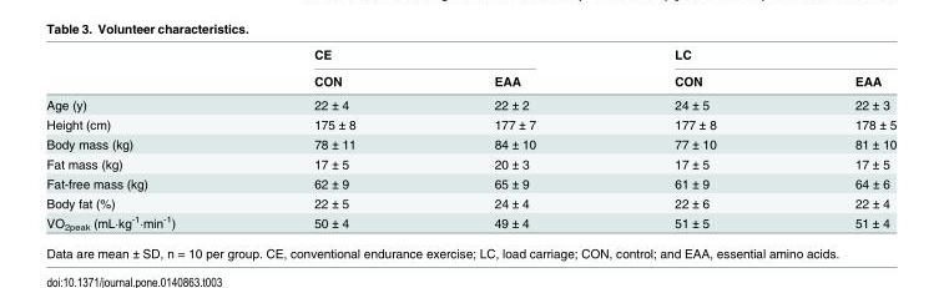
<table><thead><tr><td rowspan="2"></td><td colspan="2">CE</td><td colspan="2">LC</td></tr><tr><td>CON</td><td>EAA</td><td>CON</td><td>EAA</td></tr></thead><tbody><tr><td>Age (y)</td><td>22 ± 4</td><td>22 ± 2</td><td>24 ± 5</td><td>22 ± 3</td></tr><tr><td>Height (cm)</td><td>175 ± 8</td><td>177 ± 7</td><td>177 ± 8</td><td>178 ± 5</td></tr><tr><td>Body mass (kg)</td><td>78 ± 11</td><td>84 ± 10</td><td>77 ± 10</td><td>81 ± 10</td></tr><tr><td>Fat mass (kg)</td><td>17 ± 5</td><td>20 ± 3</td><td>17 ± 5</td><td>17 ± 5</td></tr><tr><td>Fat-free mass (kg)</td><td>62 ± 9</td><td>65 ± 9</td><td>61 ± 9</td><td>64 ± 6</td></tr><tr><td>Body fat (%)</td><td>22 ± 5</td><td>24 ± 4</td><td>22 ± 6</td><td>22 ± 4</td></tr><tr><td>VO<sub>2peak</sub> (mL∙kg<sup>-1</sup>∙min<sup>-1</sup>)</td><td>50 ± 4</td><td>49 ± 4</td><td>51 ± 5</td><td>51 ± 4</td></tr></tbody></table>